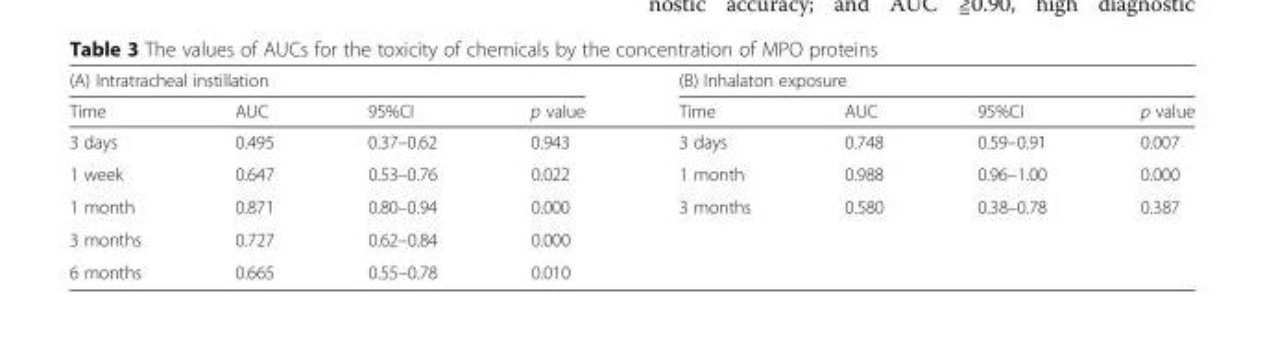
<table><thead><tr><td colspan="4">(A) Intratracheal instillation</td><td colspan="4">(B) Inhalaton exposure</td></tr><tr><td>Time</td><td>AUC</td><td>95%CI</td><td>p value</td><td>Time</td><td>AUC</td><td>95%CI</td><td>p value</td></tr></thead><tbody><tr><td>3 days</td><td>0.495</td><td>0.37–0.62</td><td>0.943</td><td>3 days</td><td>0.748</td><td>0.59–0.91</td><td>0.007</td></tr><tr><td>1 week</td><td>0.647</td><td>0.53–0.76</td><td>0.022</td><td>1 month</td><td>0.988</td><td>0.96–1.00</td><td>0.000</td></tr><tr><td>1 month</td><td>0.871</td><td>0.80–0.94</td><td>0.000</td><td>3 months</td><td>0.580</td><td>0.38–0.78</td><td>0.387</td></tr><tr><td>3 months</td><td>0.727</td><td>0.62–0.84</td><td>0.000</td><td></td><td></td><td></td><td></td></tr><tr><td>6 months</td><td>0.665</td><td>0.55–0.78</td><td>0.010</td><td></td><td></td><td></td><td></td></tr></tbody></table>